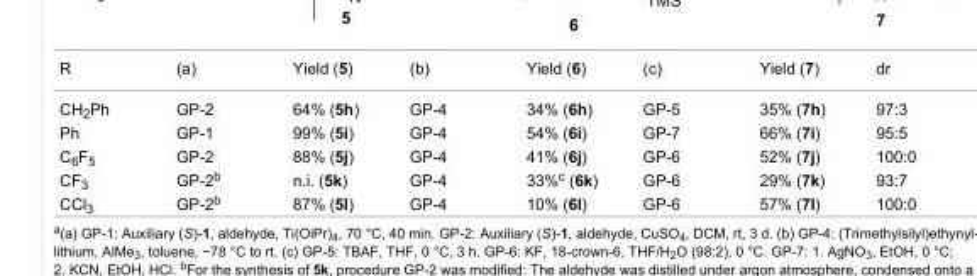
<table><tbody><tr><td>R</td><td>(a)</td><td>Yield (5)</td><td>(b)</td><td>Yield (6)</td><td>(c)</td><td>Yield (7)</td><td>dr</td></tr><tr><td>CH<sub>2</sub>Ph</td><td>GP-2</td><td>64% (5h)</td><td>GP-4</td><td>34% (6h)</td><td>GP-5</td><td>35% (7h)</td><td>97:3</td></tr><tr><td>Ph</td><td>GP-1</td><td>99% (5i)</td><td>GP-4</td><td>54% (6i)</td><td>GP-7</td><td>66% (7i)</td><td>95:5</td></tr><tr><td>C<sub>6</sub>F<sub>5</sub></td><td>GP-2</td><td>88% (5j)</td><td>GP-4</td><td>41% (6j)</td><td>GP-6</td><td>52% (7j)</td><td>100:0</td></tr><tr><td>CF<sub>3</sub></td><td>GP-2<sup>b</sup></td><td>n.i. (5k)</td><td>GP-4</td><td>33%<sup>c</sup> (6k)</td><td>GP-6</td><td>29% (7k)</td><td>93:7</td></tr><tr><td>CCl<sub>3</sub></td><td>GP-2<sup>b</sup></td><td>87% (5l)</td><td>GP-4</td><td>10% (6l)</td><td>GP-6</td><td>57% (7l)</td><td>100:0</td></tr></tbody></table>